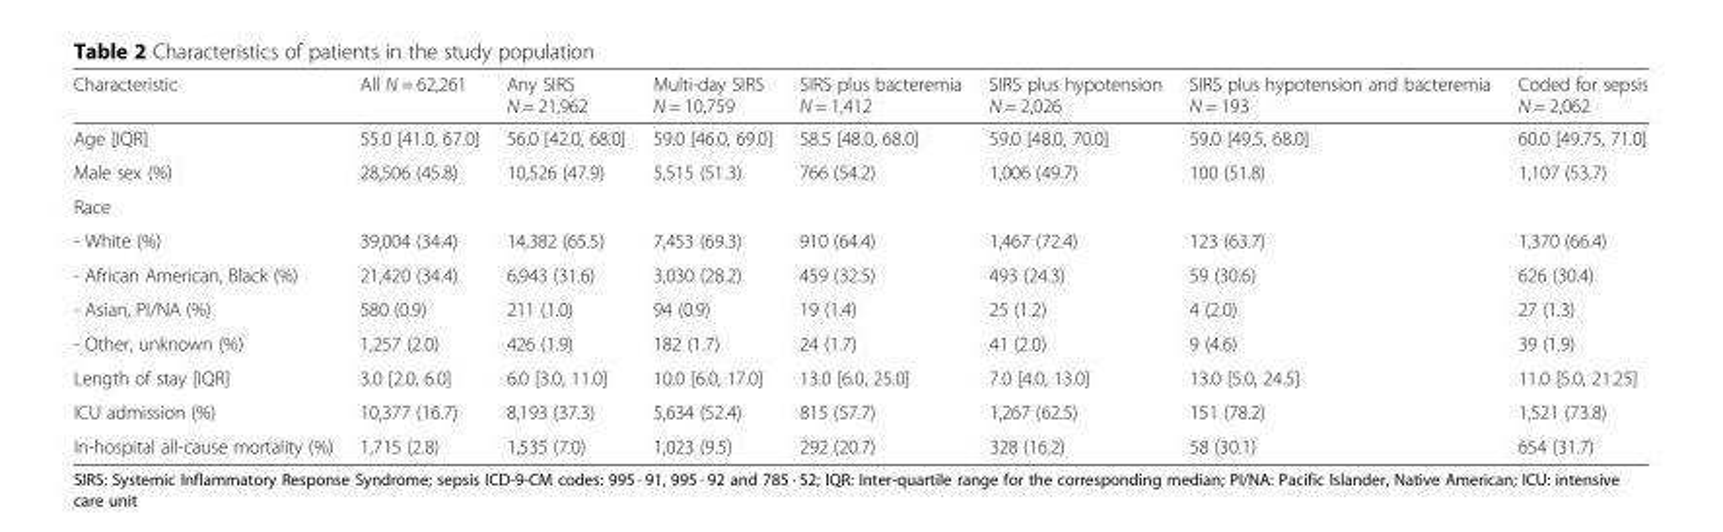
<table><thead><tr><td>Characteristic</td><td>All N = 62,261</td><td>Any SIRS N = 21,962</td><td>Multi-day SIRS N = 10,759</td><td>SIRS plus bacteremia N = 1,412</td><td>SIRS plus hypotension N = 2,026</td><td>SIRS plus hypotension and bacteremia N = 193</td><td>Coded for sepsis N = 2,062</td></tr></thead><tbody><tr><td>Age [IQR]</td><td>55.0 [41.0, 67.0]</td><td>56.0 [42.0, 68.0]</td><td>59.0 [46.0, 69.0]</td><td>58.5 [48.0, 68.0]</td><td>59.0 [48.0, 70.0]</td><td>59.0 [49.5, 68.0]</td><td>60.0 [49.75, 71.0]</td></tr><tr><td>Male sex (%)</td><td>28,506 (45.8)</td><td>10,526 (47.9)</td><td>5,515 (51.3)</td><td>766 (54.2)</td><td>1,006 (49.7)</td><td>100 (51.8)</td><td>1,107 (53.7)</td></tr><tr><td colspan="8">Race</td></tr><tr><td>- White (%)</td><td>39,004 (34.4)</td><td>14,382 (65.5)</td><td>7,453 (69.3)</td><td>910 (64.4)</td><td>1,467 (72.4)</td><td>123 (63.7)</td><td>1,370 (66.4)</td></tr><tr><td>- African American, Black (%)</td><td>21,420 (34.4)</td><td>6,943 (31.6)</td><td>3,030 (28.2)</td><td>459 (32.5)</td><td>493 (24.3)</td><td>59 (30.6)</td><td>626 (30.4)</td></tr><tr><td>- Asian, PI/NA (%)</td><td>580 (0.9)</td><td>211 (1.0)</td><td>94 (0.9)</td><td>19 (1.4)</td><td>25 (1.2)</td><td>4 (2.0)</td><td>27 (1.3)</td></tr><tr><td>- Other, unknown (%)</td><td>1,257 (2.0)</td><td>426 (1.9)</td><td>182 (1.7)</td><td>24 (1.7)</td><td>41 (2.0)</td><td>9 (4.6)</td><td>39 (1.9)</td></tr><tr><td>Length of stay [IQR]</td><td>3.0 [2.0, 6.0]</td><td>6.0 [3.0, 11.0]</td><td>10.0 [6.0, 17.0]</td><td>13.0 [6.0, 25.0]</td><td>7.0 [4.0, 13.0]</td><td>13.0 [5.0, 24.5]</td><td>11.0 [5.0, 21.25]</td></tr><tr><td>ICU admission (%)</td><td>10,377 (16.7)</td><td>8,193 (37.3)</td><td>5,634 (52.4)</td><td>815 (57.7)</td><td>1,267 (62.5)</td><td>151 (78.2)</td><td>1,521 (73.8)</td></tr><tr><td>In-hospital all-cause mortality (%)</td><td>1,715 (2.8)</td><td>1,535 (7.0)</td><td>1,023 (9.5)</td><td>292 (20.7)</td><td>328 (16.2)</td><td>58 (30.1)</td><td>654 (31.7)</td></tr></tbody></table>